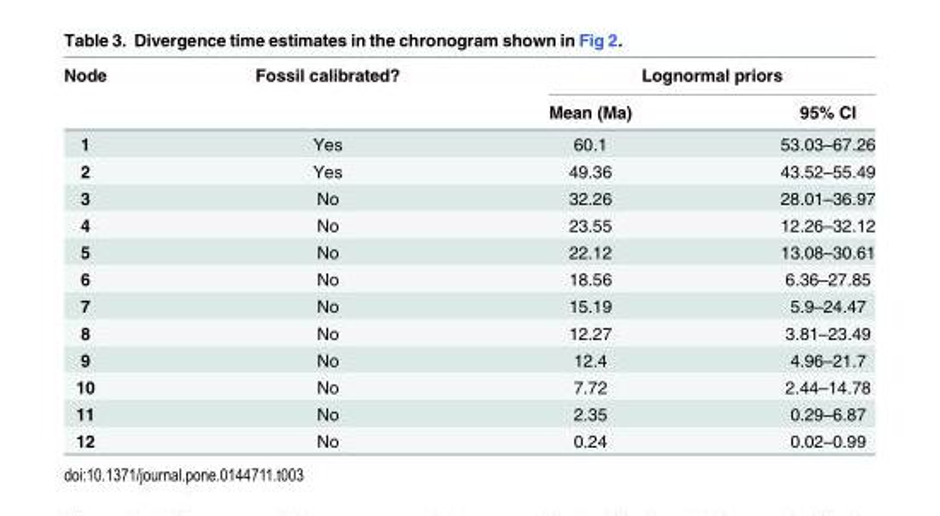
<table><thead><tr><td rowspan="2">Node</td><td rowspan="2">Fossil calibrated?</td><td colspan="2">Lognormal priors</td></tr><tr><td>Mean (Ma)</td><td>95% CI</td></tr></thead><tbody><tr><td>1</td><td>Yes</td><td>60.1</td><td>53.03–67.26</td></tr><tr><td>2</td><td>Yes</td><td>49.36</td><td>43.52–55.49</td></tr><tr><td>3</td><td>No</td><td>32.26</td><td>28.01–36.97</td></tr><tr><td>4</td><td>No</td><td>23.55</td><td>12.26–32.12</td></tr><tr><td>5</td><td>No</td><td>22.12</td><td>13.08–30.61</td></tr><tr><td>6</td><td>No</td><td>18.56</td><td>6.36–27.85</td></tr><tr><td>7</td><td>No</td><td>15.19</td><td>5.9–24.47</td></tr><tr><td>8</td><td>No</td><td>12.27</td><td>3.81–23.49</td></tr><tr><td>9</td><td>No</td><td>12.4</td><td>4.96–21.7</td></tr><tr><td>10</td><td>No</td><td>7.72</td><td>2.44–14.78</td></tr><tr><td>11</td><td>No</td><td>2.35</td><td>0.29–6.87</td></tr><tr><td>12</td><td>No</td><td>0.24</td><td>0.02–0.99</td></tr></tbody></table>